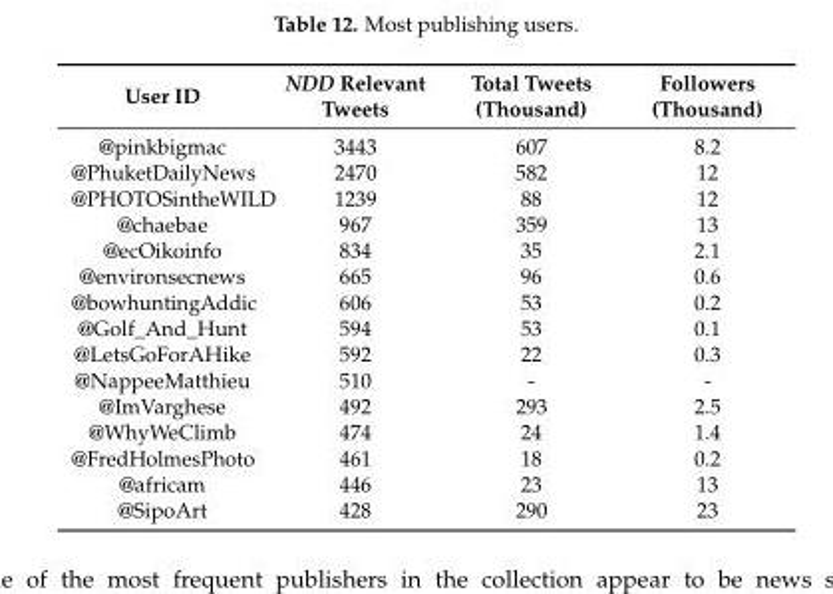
<table><thead><tr><td>User ID</td><td>NDD Relevant Tweets</td><td>Total Tweets (Thousand)</td><td>Followers (Thousand)</td></tr></thead><tbody><tr><td>@pinkbigmac</td><td>3443</td><td>607</td><td>8.2</td></tr><tr><td>@PhuketDailyNews</td><td>2470</td><td>582</td><td>12</td></tr><tr><td>@PHOTOSintheWILD</td><td>1239</td><td>88</td><td>12</td></tr><tr><td>@chaebae</td><td>967</td><td>359</td><td>13</td></tr><tr><td>@ecOikoinfo</td><td>834</td><td>35</td><td>2.1</td></tr><tr><td>@environsecnews</td><td>665</td><td>96</td><td>0.6</td></tr><tr><td>@bowhuntingAddic</td><td>606</td><td>53</td><td>0.2</td></tr><tr><td>@Golf_And_Hunt</td><td>594</td><td>53</td><td>0.1</td></tr><tr><td>@LetsGoForAHike</td><td>592</td><td>22</td><td>0.3</td></tr><tr><td>@NappeeMatthieu</td><td>510</td><td>-</td><td>-</td></tr><tr><td>@ImVarghese</td><td>492</td><td>293</td><td>2.5</td></tr><tr><td>@WhyWeClimb</td><td>474</td><td>24</td><td>1.4</td></tr><tr><td>@FredHolmesPhoto</td><td>461</td><td>18</td><td>0.2</td></tr><tr><td>@africam</td><td>446</td><td>23</td><td>13</td></tr><tr><td>@SipoArt</td><td>428</td><td>290</td><td>23</td></tr></tbody></table>